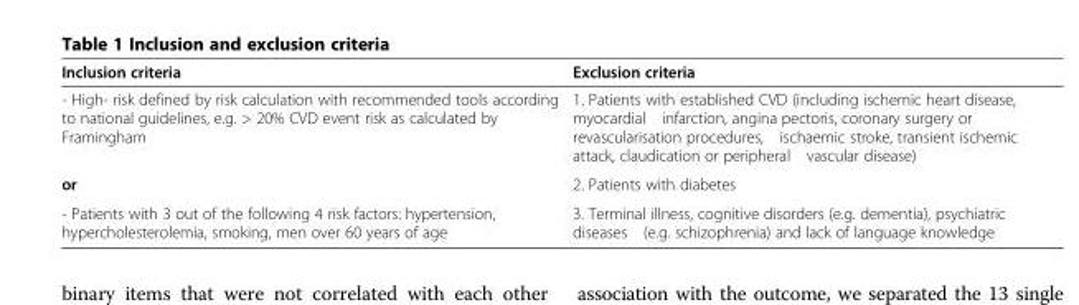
<table><thead><tr><td>Inclusion criteria</td><td>Exclusion criteria</td></tr></thead><tbody><tr><td>- High- risk defined by risk calculation with recommended tools according to national guidelines, e.g. &gt; 20% CVD event risk as calculated by Framingham</td><td>1. Patients with established CVD (including ischemic heart disease, myocardial infarction, angina pectoris, coronary surgery or revascularisation procedures, ischaemic stroke, transient ischemic attack, claudication or peripheral vascular disease)</td></tr><tr><td>or</td><td>2. Patients with diabetes</td></tr><tr><td>- Patients with 3 out of the following 4 risk factors: hypertension, hypercholesterolemia, smoking, men over 60 years of age</td><td>3. Terminal illness, cognitive disorders (e.g. dementia), psychiatric diseases (e.g. schizophrenia) and lack of language knowledge</td></tr></tbody></table>